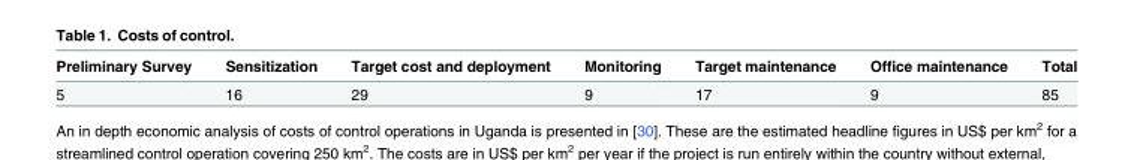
<table><thead><tr><td>Preliminary Survey</td><td>Sensitization</td><td>Target cost and deployment</td><td>Monitoring</td><td>Target maintenance</td><td>Office maintenance</td><td>Total</td></tr></thead><tbody><tr><td>5</td><td>16</td><td>29</td><td>9</td><td>17</td><td>9</td><td>85</td></tr></tbody></table>